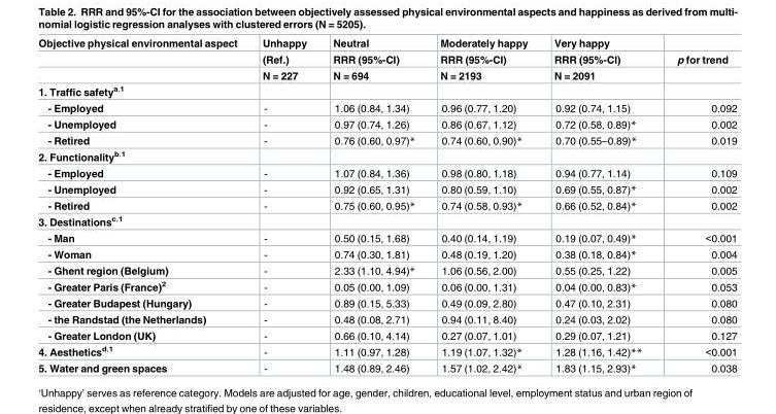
<table><thead><tr><td rowspan="3">Objective physical environmental aspect</td><td rowspan="3">Unhappy (Ref.) N = 227</td><td rowspan="3">Neutral RRR (95%-CI) N = 694</td><td rowspan="3">Moderately happy RRR (95%-CI) N = 2193</td><td rowspan="3">Very happy RRR (95%-CI) N = 2091</td><td rowspan="3">p for trend</td></tr><tr></tr><tr></tr></thead><tbody><tr><td colspan="6">1. Traffic safety<sup>a,1</sup></td></tr><tr><td>- Employed</td><td>-</td><td>1.06 (0.84, 1.34)</td><td>0.96 (0.77, 1.20)</td><td>0.92 (0.74, 1.15)</td><td>0.092</td></tr><tr><td>- Unemployed</td><td>-</td><td>0.97 (0.74, 1.26)</td><td>0.86 (0.67, 1.12)</td><td>0.72 (0.58, 0.89)*</td><td>0.002</td></tr><tr><td>- Retired</td><td>-</td><td>0.76 (0.60, 0.97)*</td><td>0.74 (0.60, 0.90)*</td><td>0.70 (0.55–0.89)*</td><td>0.019</td></tr><tr><td colspan="6">2. Functionality<sup>b,1</sup></td></tr><tr><td>- Employed</td><td>-</td><td>1.07 (0.84, 1.36)</td><td>0.98 (0.80, 1.18)</td><td>0.94 (0.77, 1.14)</td><td>0.109</td></tr><tr><td>- Unemployed</td><td>-</td><td>0.92 (0.65, 1.31)</td><td>0.80 (0.59, 1.10)</td><td>0.69 (0.55, 0.87)*</td><td>0.002</td></tr><tr><td>- Retired</td><td>-</td><td>0.75 (0.60, 0.95)*</td><td>0.74 (0.58, 0.93)*</td><td>0.66 (0.52, 0.84)*</td><td>0.002</td></tr><tr><td colspan="6">3. Destinations<sup>c,1</sup></td></tr><tr><td>- Man</td><td>-</td><td>0.50 (0.15, 1.68)</td><td>0.40 (0.14, 1.19)</td><td>0.19 (0.07, 0.49)*</td><td>&lt;0.001</td></tr><tr><td>- Woman</td><td>-</td><td>0.74 (0.30, 1.81)</td><td>0.48 (0.19, 1.20)</td><td>0.38 (0.18, 0.84)*</td><td>0.004</td></tr><tr><td>- Ghent region (Belgium)</td><td>-</td><td>2.33 (1.10, 4.94)*</td><td>1.06 (0.56, 2.00)</td><td>0.55 (0.25, 1.22)</td><td>0.005</td></tr><tr><td>- Greater Paris (France)<sup>2</sup></td><td>-</td><td>0.05 (0.00, 1.09)</td><td>0.06 (0.00, 1.31)</td><td>0.04 (0.00, 0.83)*</td><td>0.053</td></tr><tr><td>- Greater Budapest (Hungary)</td><td>-</td><td>0.89 (0.15, 5.33)</td><td>0.49 (0.09, 2.80)</td><td>0.47 (0.10, 2.31)</td><td>0.080</td></tr><tr><td>- the Randstad (the Netherlands)</td><td>-</td><td>0.48 (0.08, 2.71)</td><td>0.94 (0.11, 8.40)</td><td>0.24 (0.03, 2.02)</td><td>0.080</td></tr><tr><td>- Greater London (UK)</td><td>-</td><td>0.66 (0.10, 4.14)</td><td>0.27 (0.07, 1.01)</td><td>0.29 (0.07, 1.21)</td><td>0.127</td></tr><tr><td>4. Aesthetics<sup>d,1</sup></td><td>-</td><td>1.11 (0.97, 1.28)</td><td>1.19 (1.07, 1.32)*</td><td>1.28 (1.16, 1.42)**</td><td>&lt;0.001</td></tr><tr><td>5. Water and green spaces</td><td>-</td><td>1.48 (0.89, 2.46)</td><td>1.57 (1.02, 2.42)*</td><td>1.83 (1.15, 2.93)*</td><td>0.038</td></tr></tbody></table>